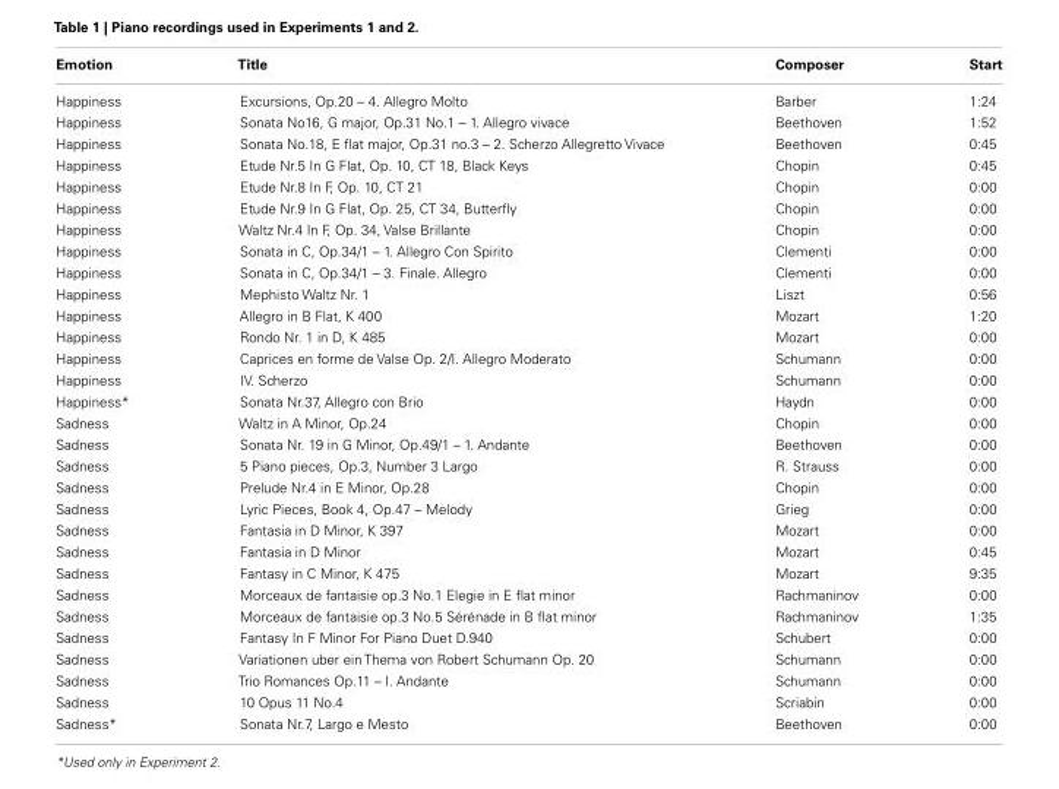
<table><thead><tr><td>Emotion</td><td>Title</td><td>Composer</td><td>Start</td></tr></thead><tbody><tr><td>Happiness</td><td>Excursions, Op.20 – 4. Allegro Molto</td><td>Barber</td><td>1:24</td></tr><tr><td>Happiness</td><td>Sonata No16, G major, Op.31 No.1 – 1. Allegro vivace</td><td>Beethoven</td><td>1:52</td></tr><tr><td>Happiness</td><td>Sonata No.18, E flat major, Op.31 no.3 – 2. Scherzo Allegretto Vivace</td><td>Beethoven</td><td>0:45</td></tr><tr><td>Happiness</td><td>Etude Nr.5 In G Flat, Op. 10, CT 18, Black Keys</td><td>Chopin</td><td>0:45</td></tr><tr><td>Happiness</td><td>Etude Nr.8 In F, Op. 10, CT 21</td><td>Chopin</td><td>0:00</td></tr><tr><td>Happiness</td><td>Etude Nr.9 In G Flat, Op. 25, CT 34, Butterfly</td><td>Chopin</td><td>0:00</td></tr><tr><td>Happiness</td><td>Waltz Nr.4 In F, Op. 34, Valse Brillante</td><td>Chopin</td><td>0:00</td></tr><tr><td>Happiness</td><td>Sonata in C, Op.34/1 – 1. Allegro Con Spirito</td><td>Clementi</td><td>0:00</td></tr><tr><td>Happiness</td><td>Sonata in C, Op.34/1 – 3. Finale. Allegro</td><td>Clementi</td><td>0:00</td></tr><tr><td>Happiness</td><td>Mephisto Waltz Nr. 1</td><td>Liszt</td><td>0:56</td></tr><tr><td>Happiness</td><td>Allegro in B Flat, K 400</td><td>Mozart</td><td>1:20</td></tr><tr><td>Happiness</td><td>Rondo Nr. 1 in D, K 485</td><td>Mozart</td><td>0:00</td></tr><tr><td>Happiness</td><td>Caprices en forme de Valse Op. 2/I. Allegro Moderato</td><td>Schumann</td><td>0:00</td></tr><tr><td>Happiness</td><td>IV. Scherzo</td><td>Schumann</td><td>0:00</td></tr><tr><td>Happiness*</td><td>Sonata Nr.37, Allegro con Brio</td><td>Haydn</td><td>0:00</td></tr><tr><td>Sadness</td><td>Waltz in A Minor, Op.24</td><td>Chopin</td><td>0:00</td></tr><tr><td>Sadness</td><td>Sonata Nr. 19 in G Minor, Op.49/1 – 1. Andante</td><td>Beethoven</td><td>0:00</td></tr><tr><td>Sadness</td><td>5 Piano pieces, Op.3, Number 3 Largo</td><td>R. Strauss</td><td>0:00</td></tr><tr><td>Sadness</td><td>Prelude Nr.4 in E Minor, Op.28</td><td>Chopin</td><td>0:00</td></tr><tr><td>Sadness</td><td>Lyric Pieces, Book 4, Op.47 – Melody</td><td>Grieg</td><td>0:00</td></tr><tr><td>Sadness</td><td>Fantasia in D Minor, K 397</td><td>Mozart</td><td>0:00</td></tr><tr><td>Sadness</td><td>Fantasia in D Minor</td><td>Mozart</td><td>0:45</td></tr><tr><td>Sadness</td><td>Fantasy in C Minor, K 475</td><td>Mozart</td><td>9:35</td></tr><tr><td>Sadness</td><td>Morceaux de fantaisie op.3 No.1 Elegie in E flat minor</td><td>Rachmaninov</td><td>0:00</td></tr><tr><td>Sadness</td><td>Morceaux de fantaisie op.3 No.5 Sérénade in B flat minor</td><td>Rachmaninov</td><td>1:35</td></tr><tr><td>Sadness</td><td>Fantasy In F Minor For Piano Duet D.940</td><td>Schubert</td><td>0:00</td></tr><tr><td>Sadness</td><td>Variationen uber ein Thema von Robert Schumann Op. 20</td><td>Schumann</td><td>0:00</td></tr><tr><td>Sadness</td><td>Trio Romances Op.11 – I. Andante</td><td>Schumann</td><td>0:00</td></tr><tr><td>Sadness</td><td>10 Opus 11 No.4</td><td>Scriabin</td><td>0:00</td></tr><tr><td>Sadness*</td><td>Sonata Nr.7, Largo e Mesto</td><td>Beethoven</td><td>0:00</td></tr></tbody></table>